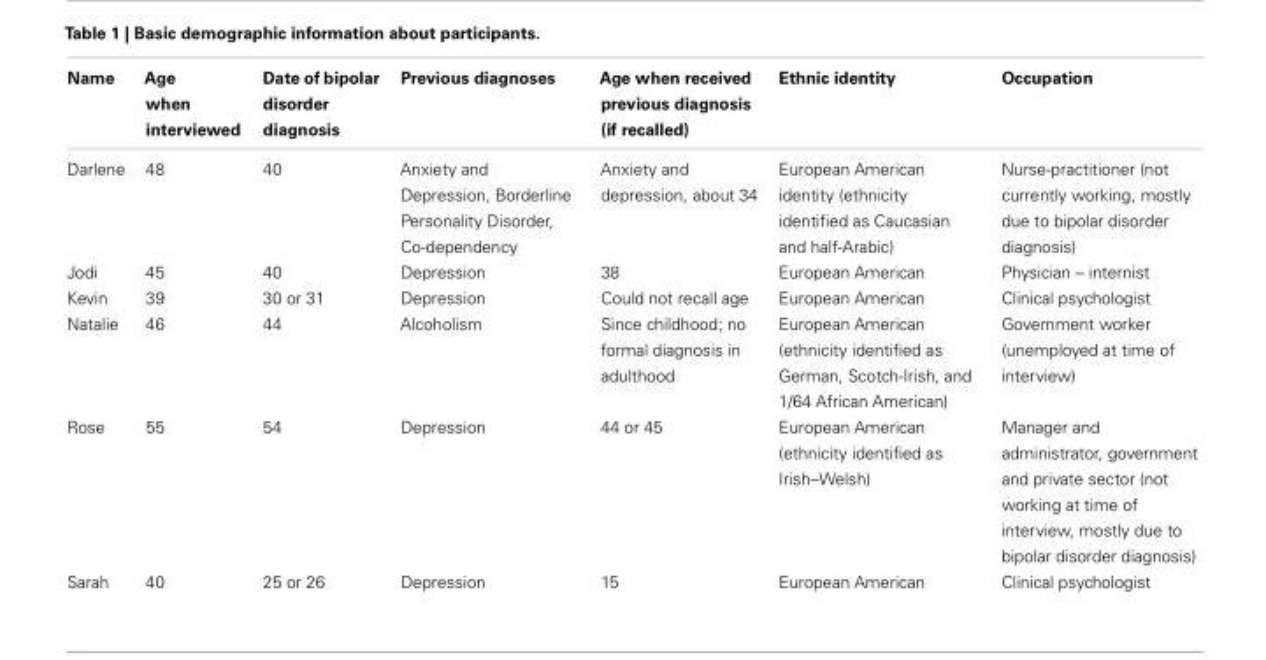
<table><thead><tr><td>Name</td><td>Age when interviewed</td><td>Date of bipolar disorder diagnosis</td><td>Previous diagnoses</td><td>Age when received previous diagnosis (if recalled)</td><td>Ethnic identity</td><td>Occupation</td></tr></thead><tbody><tr><td>Darlene</td><td>48</td><td>40</td><td>Anxiety and Depression, Borderline Personality Disorder, Co-dependency</td><td>Anxiety and depression, about 34</td><td>European American identity (ethnicity identified as Caucasian and half-Arabic)</td><td>Nurse-practitioner (not currently working, mostly due to bipolar disorder diagnosis)</td></tr><tr><td>Jodi</td><td>45</td><td>40</td><td>Depression</td><td>38</td><td>European American</td><td>Physician – internist</td></tr><tr><td>Kevin</td><td>39</td><td>30 or 31</td><td>Depression</td><td>Could not recall age</td><td>European American</td><td>Clinical psychologist</td></tr><tr><td>Natalie</td><td>46</td><td>44</td><td>Alcoholism</td><td>Since childhood; no formal diagnosis in adulthood</td><td>European American (ethnicity identified as German, Scotch-Irish, and 1/64 African American)</td><td>Government worker (unemployed at time of interview)</td></tr><tr><td>Rose</td><td>55</td><td>54</td><td>Depression</td><td>44 or 45</td><td>European American (ethnicity identified as Irish–Welsh)</td><td>Manager and administrator, government and private sector (not working at time of interview, mostly due to bipolar disorder diagnosis)</td></tr><tr><td>Sarah</td><td>40</td><td>25 or 26</td><td>Depression</td><td>15</td><td>European American</td><td>Clinical psychologist</td></tr></tbody></table>